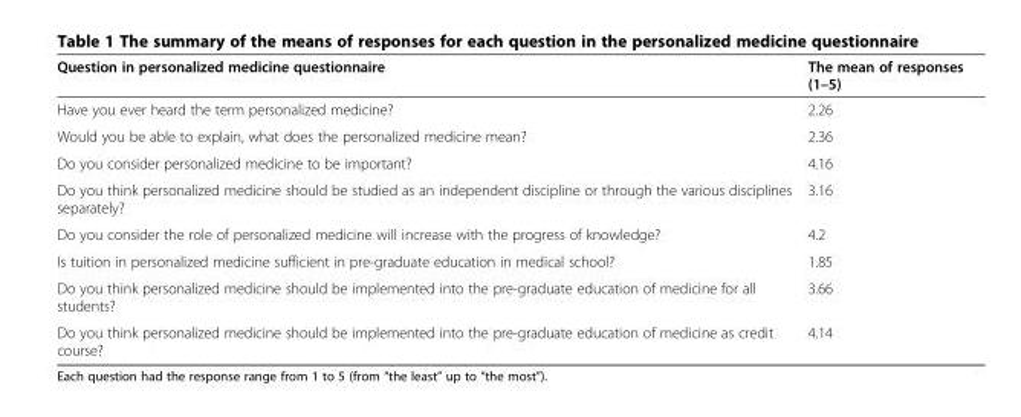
<table><thead><tr><td>Question in personalized medicine questionnaire</td><td>The mean of responses (1–5)</td></tr></thead><tbody><tr><td>Have you ever heard the term personalized medicine?</td><td>2.26</td></tr><tr><td>Would you be able to explain, what does the personalized medicine mean?</td><td>2.36</td></tr><tr><td>Do you consider personalized medicine to be important?</td><td>4.16</td></tr><tr><td>Do you think personalized medicine should be studied as an independent discipline or through the various disciplines separately?</td><td>3.16</td></tr><tr><td>Do you consider the role of personalized medicine will increase with the progress of knowledge?</td><td>4.2</td></tr><tr><td>Is tuition in personalized medicine sufficient in pre-graduate education in medical school?</td><td>1.85</td></tr><tr><td>Do you think personalized medicine should be implemented into the pre-graduate education of medicine for all students?</td><td>3.66</td></tr><tr><td>Do you think personalized medicine should be implemented into the pre-graduate education of medicine as credit course?</td><td>4.14</td></tr></tbody></table>